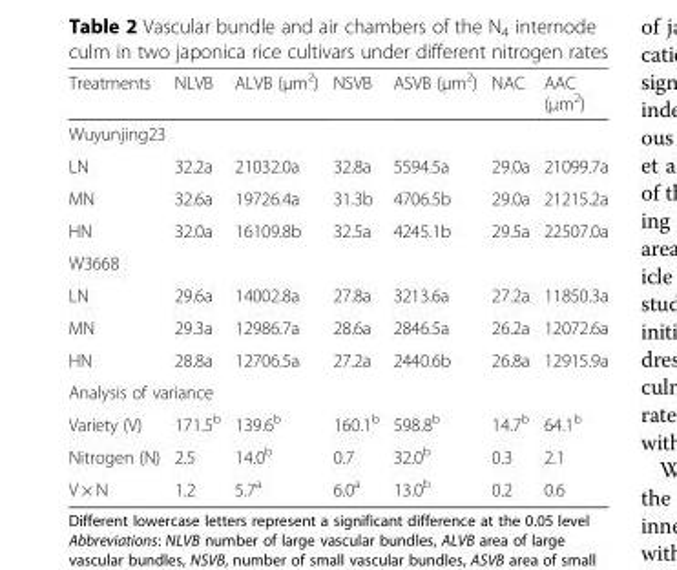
<table><thead><tr><td>Treatments</td><td>NLVB</td><td>ALVB (μm<sup>2</sup>)</td><td>NSVB</td><td>ASVB (μm<sup>2</sup>)</td><td>NAC</td><td>AAC (μm<sup>2</sup>)</td></tr></thead><tbody><tr><td colspan="7">Wuyunjing23</td></tr><tr><td>LN</td><td>32.2a</td><td>21032.0a</td><td>32.8a</td><td>5594.5a</td><td>29.0a</td><td>21099.7a</td></tr><tr><td>MN</td><td>32.6a</td><td>19726.4a</td><td>31.3b</td><td>4706.5b</td><td>29.0a</td><td>21215.2a</td></tr><tr><td>HN</td><td>32.0a</td><td>16109.8b</td><td>32.5a</td><td>4245.1b</td><td>29.5a</td><td>22507.0a</td></tr><tr><td colspan="7">W3668</td></tr><tr><td>LN</td><td>29.6a</td><td>14002.8a</td><td>27.8a</td><td>3213.6a</td><td>27.2a</td><td>11850.3a</td></tr><tr><td>MN</td><td>29.3a</td><td>12986.7a</td><td>28.6a</td><td>2846.5a</td><td>26.2a</td><td>12072.6a</td></tr><tr><td>HN</td><td>28.8a</td><td>12706.5a</td><td>27.2a</td><td>2440.6b</td><td>26.8a</td><td>12915.9a</td></tr><tr><td colspan="7">Analysis of variance</td></tr><tr><td>Variety (V)</td><td>171.5<sup>b</sup></td><td>139.6<sup>b</sup></td><td>160.1<sup>b</sup></td><td>598.8<sup>b</sup></td><td>14.7<sup>b</sup></td><td>64.1<sup>b</sup></td></tr><tr><td>Nitrogen (N)</td><td>2.5</td><td>14.0<sup>b</sup></td><td>0.7</td><td>32.0<sup>b</sup></td><td>0.3</td><td>2.1</td></tr><tr><td>V × N</td><td>1.2</td><td>5.7<sup>a</sup></td><td>6.0<sup>a</sup></td><td>13.0<sup>b</sup></td><td>0.2</td><td>0.6</td></tr></tbody></table>